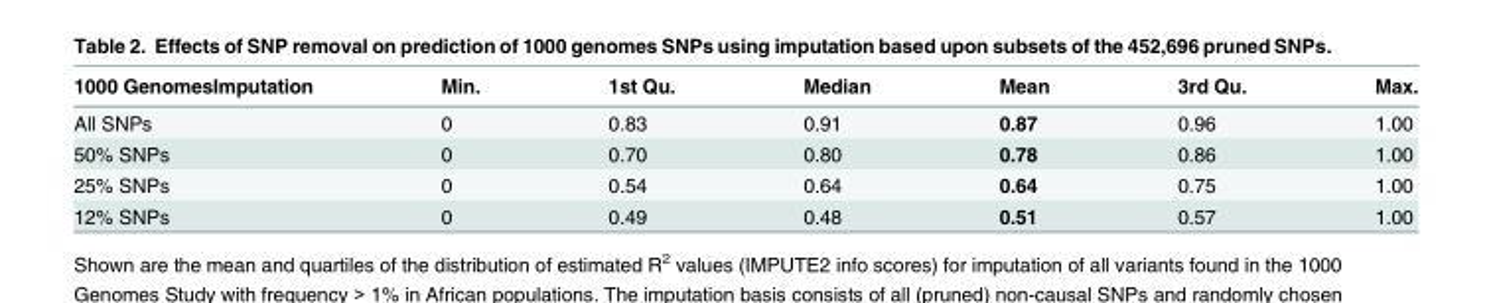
<table><thead><tr><td>1000 GenomesImputation</td><td>Min.</td><td>1st Qu.</td><td>Median</td><td>Mean</td><td>3rd Qu.</td><td>Max.</td></tr></thead><tbody><tr><td>All SNPs</td><td>0</td><td>0.83</td><td>0.91</td><td>0.87</td><td>0.96</td><td>1.00</td></tr><tr><td>50% SNPs</td><td>0</td><td>0.70</td><td>0.80</td><td>0.78</td><td>0.86</td><td>1.00</td></tr><tr><td>25% SNPs</td><td>0</td><td>0.54</td><td>0.64</td><td>0.64</td><td>0.75</td><td>1.00</td></tr><tr><td>12% SNPs</td><td>0</td><td>0.49</td><td>0.48</td><td>0.51</td><td>0.57</td><td>1.00</td></tr></tbody></table>